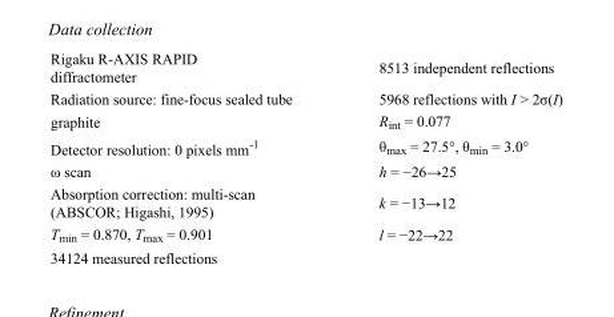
<table><tbody><tr><td>Rigaku R-AXIS RAPID diffractometer</td><td>8513 independent reflections</td></tr><tr><td>Radiation source: fine-focus sealed tube</td><td>5968 reflections with I &gt; 2σ(I)</td></tr><tr><td>graphite</td><td>R<sub>int</sub> = 0.077</td></tr><tr><td>Detector resolution: 0 pixels mm<sup>-1</sup></td><td>θ<sub>max</sub> = 27.5°, θ<sub>min</sub> = 3.0°</td></tr><tr><td>ω scan</td><td>h = −26→25</td></tr><tr><td>Absorption correction: multi-scan (ABSCOR; Higashi, 1995)</td><td>k = −13→12</td></tr><tr><td>T<sub>min</sub> = 0.870, T<sub>max</sub> = 0.901</td><td>l = −22→22</td></tr><tr><td>34124 measured reflections</td><td></td></tr></tbody></table>